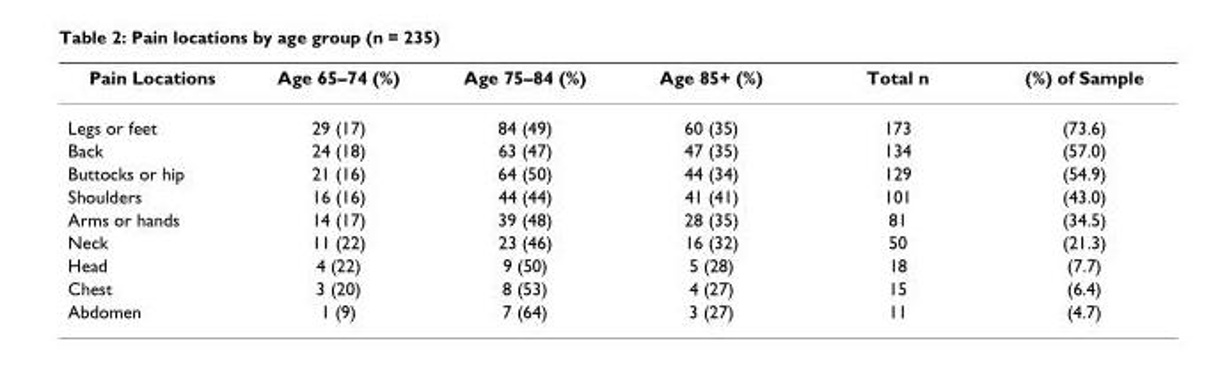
<table><thead><tr><td>Pain Locations</td><td>Age 65–74 (%)</td><td>Age 75–84 (%)</td><td>Age 85+ (%)</td><td>Total n</td><td>(%) of Sample</td></tr></thead><tbody><tr><td>Legs or feet</td><td>29 (17)</td><td>84 (49)</td><td>60 (35)</td><td>173</td><td>(73.6)</td></tr><tr><td>Back</td><td>24 (18)</td><td>63 (47)</td><td>47 (35)</td><td>134</td><td>(57.0)</td></tr><tr><td>Buttocks or hip</td><td>21 (16)</td><td>64 (50)</td><td>44 (34)</td><td>129</td><td>(54.9)</td></tr><tr><td>Shoulders</td><td>16 (16)</td><td>44 (44)</td><td>41 (41)</td><td>101</td><td>(43.0)</td></tr><tr><td>Arms or hands</td><td>14 (17)</td><td>39 (48)</td><td>28 (35)</td><td>81</td><td>(34.5)</td></tr><tr><td>Neck</td><td>11 (22)</td><td>23 (46)</td><td>16 (32)</td><td>50</td><td>(21.3)</td></tr><tr><td>Head</td><td>4 (22)</td><td>9 (50)</td><td>5 (28)</td><td>18</td><td>(7.7)</td></tr><tr><td>Chest</td><td>3 (20)</td><td>8 (53)</td><td>4 (27)</td><td>15</td><td>(6.4)</td></tr><tr><td>Abdomen</td><td>1 (9)</td><td>7 (64)</td><td>3 (27)</td><td>11</td><td>(4.7)</td></tr></tbody></table>